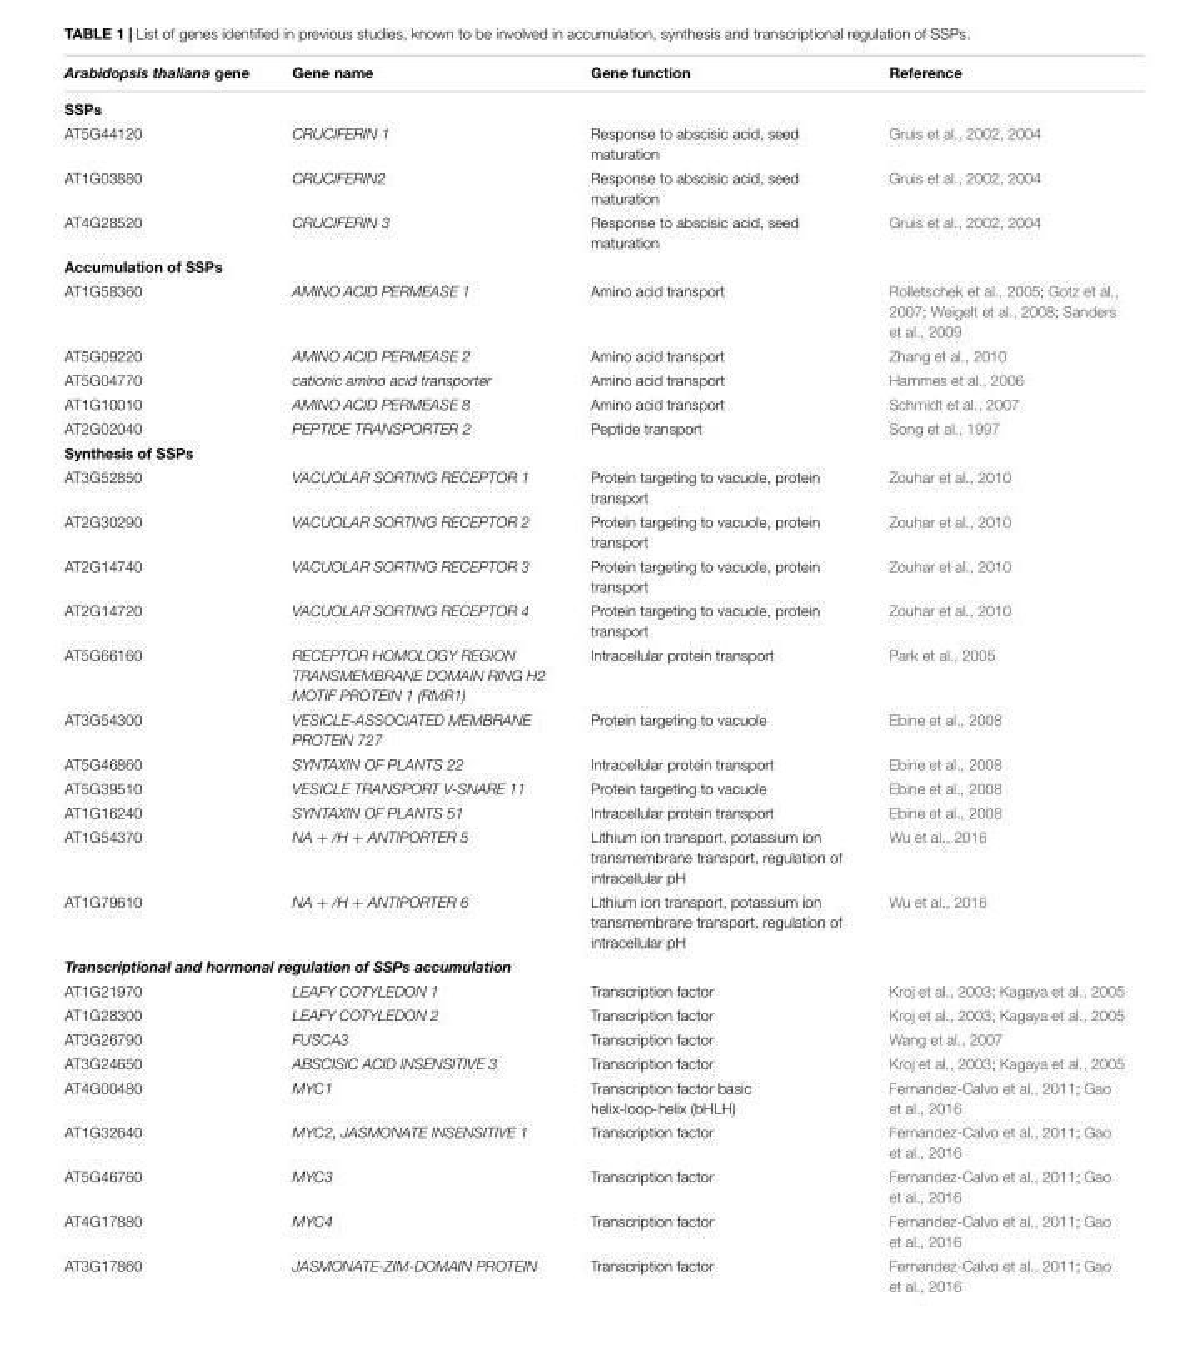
<table><thead><tr><td>Arabidopsis thaliana gene</td><td>Gene name</td><td>Gene function</td><td>Reference</td></tr></thead><tbody><tr><td colspan="4">SSPs</td></tr><tr><td>AT5G44120</td><td>CRUCIFERIN 1</td><td>Response to abscisic acid, seed maturation</td><td>Gruis et al., 2002, 2004</td></tr><tr><td>AT1G03880</td><td>CRUCIFERIN2</td><td>Response to abscisic acid, seed maturation</td><td>Gruis et al., 2002, 2004</td></tr><tr><td>AT4G28520</td><td>CRUCIFERIN 3</td><td>Response to abscisic acid, seed maturation</td><td>Gruis et al., 2002, 2004</td></tr><tr><td colspan="4">Accumulation of SSPs</td></tr><tr><td>AT1G58360</td><td>AMINO ACID PERMEASE 1</td><td>Amino acid transport</td><td>Rolletschek et al., 2005; Gotz et al., 2007; Weigelt et al., 2008; Sanders et al., 2009</td></tr><tr><td>AT5G09220</td><td>AMINO ACID PERMEASE 2</td><td>Amino acid transport</td><td>Zhang et al., 2010</td></tr><tr><td>AT5G04770</td><td>cationic amino acid transporter</td><td>Amino acid transport</td><td>Hammes et al., 2006</td></tr><tr><td>AT1G10010</td><td>AMINO ACID PERMEASE 8</td><td>Amino acid transport</td><td>Schmidt et al., 2007</td></tr><tr><td>AT2G02040</td><td>PEPTIDE TRANSPORTER 2</td><td>Peptide transport</td><td>Song et al., 1997</td></tr><tr><td colspan="4">Synthesis of SSPs</td></tr><tr><td>AT3G52850</td><td>VACUOLAR SORTING RECEPTOR 1</td><td>Protein targeting to vacuole, protein transport</td><td>Zouhar et al., 2010</td></tr><tr><td>AT2G30290</td><td>VACUOLAR SORTING RECEPTOR 2</td><td>Protein targeting to vacuole, protein transport</td><td>Zouhar et al., 2010</td></tr><tr><td>AT2G14740</td><td>VACUOLAR SORTING RECEPTOR 3</td><td>Protein targeting to vacuole, protein transport</td><td>Zouhar et al., 2010</td></tr><tr><td>AT2G14720</td><td>VACUOLAR SORTING RECEPTOR 4</td><td>Protein targeting to vacuole, protein transport</td><td>Zouhar et al., 2010</td></tr><tr><td>AT5G66160</td><td>RECEPTOR HOMOLOGY REGION TRANSMEMBRANE DOMAIN RING H2 MOTIF PROTEIN 1 (RMR1)</td><td>Intracellular protein transport</td><td>Park et al., 2005</td></tr><tr><td>AT3G54300</td><td>VESICLE-ASSOCIATED MEMBRANE PROTEIN 727</td><td>Protein targeting to vacuole</td><td>Ebine et al., 2008</td></tr><tr><td>AT5G46860</td><td>SYNTAXIN OF PLANTS 22</td><td>Intracellular protein transport</td><td>Ebine et al., 2008</td></tr><tr><td>AT5G39510</td><td>VESICLE TRANSPORT V-SNARE 11</td><td>Protein targeting to vacuole</td><td>Ebine et al., 2008</td></tr><tr><td>AT1G16240</td><td>SYNTAXIN OF PLANTS 51</td><td>Intracellular protein transport</td><td>Ebine et al., 2008</td></tr><tr><td>AT1G54370</td><td>NA + /H + ANTIPORTER 5</td><td>Lithium ion transport, potassium ion transmembrane transport, regulation of intracellular pH</td><td>Wu et al., 2016</td></tr><tr><td>AT1G79610</td><td>NA + /H + ANTIPORTER 6</td><td>Lithium ion transport, potassium ion transmembrane transport, regulation of intracellular pH</td><td>Wu et al., 2016</td></tr><tr><td colspan="4">Transcriptional and hormonal regulation of SSPs accumulation</td></tr><tr><td>AT1G21970</td><td>LEAFY COTYLEDON 1</td><td>Transcription factor</td><td>Kroj et al., 2003; Kagaya et al., 2005</td></tr><tr><td>AT1G28300</td><td>LEAFY COTYLEDON 2</td><td>Transcription factor</td><td>Kroj et al., 2003; Kagaya et al., 2005</td></tr><tr><td>AT3G26790</td><td>FUSCA3</td><td>Transcription factor</td><td>Wang et al., 2007</td></tr><tr><td>AT3G24650</td><td>ABSCISIC ACID INSENSITIVE 3</td><td>Transcription factor</td><td>Kroj et al., 2003; Kagaya et al., 2005</td></tr><tr><td>AT4G00480</td><td>MYC1</td><td>Transcription factor basic helix-loop-helix (bHLH)</td><td>Fernandez-Calvo et al., 2011; Gao et al., 2016</td></tr><tr><td>AT1G32640</td><td>MYC2, JASMONATE INSENSITIVE 1</td><td>Transcription factor</td><td>Fernandez-Calvo et al., 2011; Gao et al., 2016</td></tr><tr><td>AT5G46760</td><td>MYC3</td><td>Transcription factor</td><td>Fernandez-Calvo et al., 2011; Gao et al., 2016</td></tr><tr><td>AT4G17880</td><td>MYC4</td><td>Transcription factor</td><td>Fernandez-Calvo et al., 2011; Gao et al., 2016</td></tr><tr><td>AT3G17860</td><td>JASMONATE-ZIM-DOMAIN PROTEIN</td><td>Transcription factor</td><td>Fernandez-Calvo et al., 2011; Gao et al., 2016</td></tr></tbody></table>